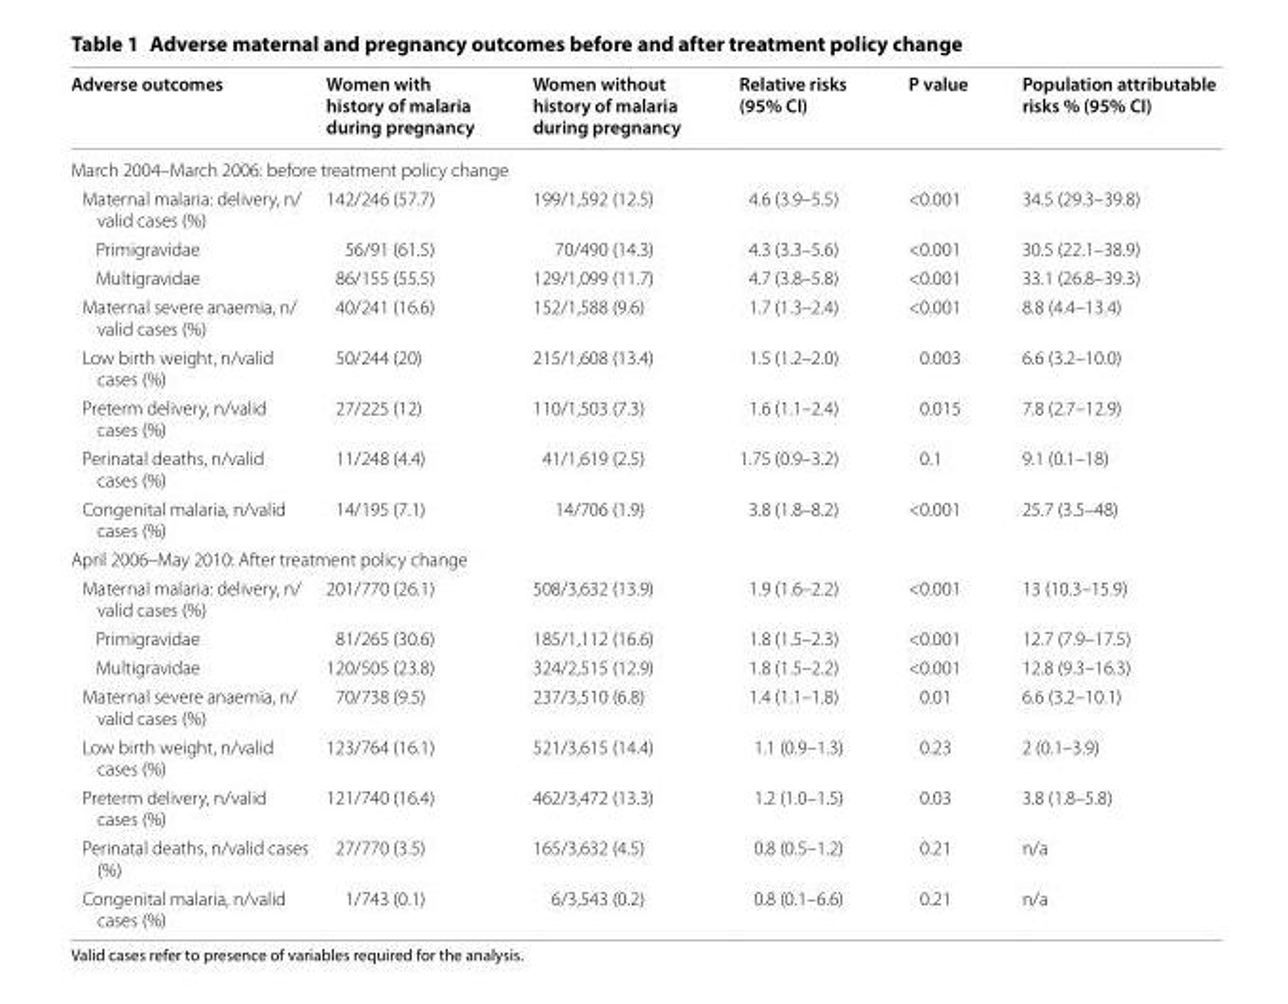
<table><thead><tr><td>Adverse outcomes</td><td>Women with history of malaria during pregnancy</td><td>Women without history of malaria during pregnancy</td><td>Relative risks (95% CI)</td><td>P value</td><td>Population attributable risks % (95% CI)</td></tr></thead><tbody><tr><td colspan="6">March 2004–March 2006: before treatment policy change</td></tr><tr><td>Maternal malaria: delivery, n/ valid cases (%)</td><td>142/246 (57.7)</td><td>199/1,592 (12.5)</td><td>4.6 (3.9–5.5)</td><td>&lt;0.001</td><td>34.5 (29.3–39.8)</td></tr><tr><td>Primigravidae</td><td>56/91 (61.5)</td><td>70/490 (14.3)</td><td>4.3 (3.3–5.6)</td><td>&lt;0.001</td><td>30.5 (22.1–38.9)</td></tr><tr><td>Multigravidae</td><td>86/155 (55.5)</td><td>129/1,099 (11.7)</td><td>4.7 (3.8–5.8)</td><td>&lt;0.001</td><td>33.1 (26.8–39.3)</td></tr><tr><td>Maternal severe anaemia, n/ valid cases (%)</td><td>40/241 (16.6)</td><td>152/1,588 (9.6)</td><td>1.7 (1.3–2.4)</td><td>&lt;0.001</td><td>8.8 (4.4–13.4)</td></tr><tr><td>Low birth weight, n/valid cases (%)</td><td>50/244 (20)</td><td>215/1,608 (13.4)</td><td>1.5 (1.2–2.0)</td><td>0.003</td><td>6.6 (3.2–10.0)</td></tr><tr><td>Preterm delivery, n/valid cases (%)</td><td>27/225 (12)</td><td>110/1,503 (7.3)</td><td>1.6 (1.1–2.4)</td><td>0.015</td><td>7.8 (2.7–12.9)</td></tr><tr><td>Perinatal deaths, n/valid cases (%)</td><td>11/248 (4.4)</td><td>41/1,619 (2.5)</td><td>1.75 (0.9–3.2)</td><td>0.1</td><td>9.1 (0.1–18)</td></tr><tr><td>Congenital malaria, n/valid cases (%)</td><td>14/195 (7.1)</td><td>14/706 (1.9)</td><td>3.8 (1.8–8.2)</td><td>&lt;0.001</td><td>25.7 (3.5–48)</td></tr><tr><td colspan="6">April 2006–May 2010: After treatment policy change</td></tr><tr><td>Maternal malaria: delivery, n/ valid cases (%)</td><td>201/770 (26.1)</td><td>508/3,632 (13.9)</td><td>1.9 (1.6–2.2)</td><td>&lt;0.001</td><td>13 (10.3–15.9)</td></tr><tr><td>Primigravidae</td><td>81/265 (30.6)</td><td>185/1,112 (16.6)</td><td>1.8 (1.5–2.3)</td><td>&lt;0.001</td><td>12.7 (7.9–17.5)</td></tr><tr><td>Multigravidae</td><td>120/505 (23.8)</td><td>324/2,515 (12.9)</td><td>1.8 (1.5–2.2)</td><td>&lt;0.001</td><td>12.8 (9.3–16.3)</td></tr><tr><td>Maternal severe anaemia, n/ valid cases (%)</td><td>70/738 (9.5)</td><td>237/3,510 (6.8)</td><td>1.4 (1.1–1.8)</td><td>0.01</td><td>6.6 (3.2–10.1)</td></tr><tr><td>Low birth weight, n/valid cases (%)</td><td>123/764 (16.1)</td><td>521/3,615 (14.4)</td><td>1.1 (0.9–1.3)</td><td>0.23</td><td>2 (0.1–3.9)</td></tr><tr><td>Preterm delivery, n/valid cases (%)</td><td>121/740 (16.4)</td><td>462/3,472 (13.3)</td><td>1.2 (1.0–1.5)</td><td>0.03</td><td>3.8 (1.8–5.8)</td></tr><tr><td>Perinatal deaths, n/valid cases (%)</td><td>27/770 (3.5)</td><td>165/3,632 (4.5)</td><td>0.8 (0.5–1.2)</td><td>0.21</td><td>n/a</td></tr><tr><td>Congenital malaria, n/valid cases (%)</td><td>1/743 (0.1)</td><td>6/3,543 (0.2)</td><td>0.8 (0.1–6.6)</td><td>0.21</td><td>n/a</td></tr></tbody></table>